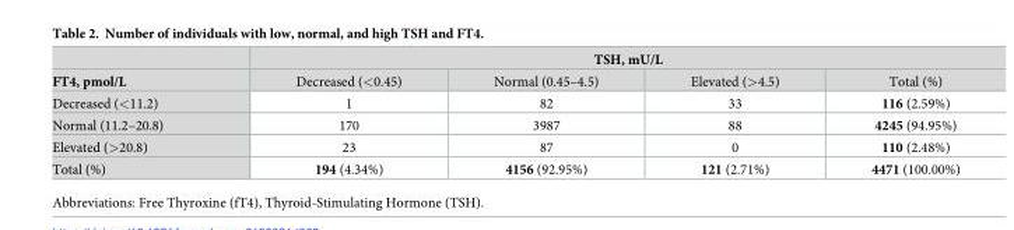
<table><thead><tr><td rowspan="2">FT4, pmol/L</td><td colspan="4">TSH, mU/L</td></tr><tr><td>Decreased (&lt;0.45)</td><td>Normal (0.45–4.5)</td><td>Elevated (&gt;4.5)</td><td>Total (%)</td></tr></thead><tbody><tr><td>Decreased (&lt;11.2)</td><td>1</td><td>82</td><td>33</td><td>116 (2.59%)</td></tr><tr><td>Normal (11.2–20.8)</td><td>170</td><td>3987</td><td>88</td><td>4245 (94.95%)</td></tr><tr><td>Elevated (&gt;20.8)</td><td>23</td><td>87</td><td>0</td><td>110 (2.48%)</td></tr><tr><td>Total (%)</td><td>194 (4.34%)</td><td>4156 (92.95%)</td><td>121 (2.71%)</td><td>4471 (100.00%)</td></tr></tbody></table>